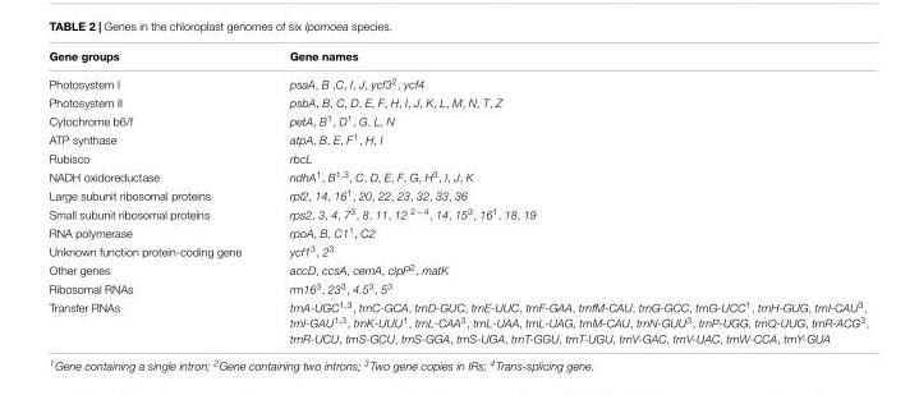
<table><thead><tr><td>Gene groups</td><td>Gene names</td></tr></thead><tbody><tr><td>Photosystem I</td><td>psaA, B ,C, I, J, ycf3<sup>2</sup>, ycf4</td></tr><tr><td>Photosystem II</td><td>psbA, B, C, D, E, F, H, I, J, K, L, M, N, T, Z</td></tr><tr><td>Cytochrome b6/f</td><td>petA, B<sup>1</sup>, D<sup>1</sup>, G, L, N</td></tr><tr><td>ATP synthase</td><td>atpA, B, E, F<sup>1</sup>, H, I</td></tr><tr><td>Rubisco</td><td>rbcL</td></tr><tr><td>NADH oxidoreductase</td><td>ndhA<sup>1</sup>, B<sup>1,3</sup>, C, D, E, F, G, H<sup>3</sup>, I, J, K</td></tr><tr><td>Large subunit ribosomal proteins</td><td>rpl2, 14, 16<sup>1</sup>, 20, 22, 23, 32, 33, 36</td></tr><tr><td>Small subunit ribosomal proteins</td><td>rps2, 3, 4, 7<sup>3</sup>, 8, 11, 12 <sup>2−4</sup>, 14, 15<sup>3</sup>, 16<sup>1</sup>, 18, 19</td></tr><tr><td>RNA polymerase</td><td>rpoA, B, C1<sup>1</sup>, C2</td></tr><tr><td>Unknown function protein-coding gene</td><td>ycf1<sup>3</sup>, 2<sup>3</sup></td></tr><tr><td>Other genes</td><td>accD, ccsA, cemA, clpP<sup>2</sup>, matK</td></tr><tr><td>Ribosomal RNAs</td><td>rrn16<sup>3</sup>, 23<sup>3</sup>, 4.5<sup>3</sup>, 5<sup>3</sup></td></tr><tr><td>Transfer RNAs</td><td>trnA-UGC<sup>1,3</sup>, trnC-GCA, trnD-GUC, trnE-UUC, trnF-GAA, trnfM-CAU, trnG-GCC, trnG-UCC<sup>1</sup>, trnH-GUG, trnI-CAU<sup>3</sup>, trnI-GAU<sup>1,3</sup>, trnK-UUU<sup>1</sup>, trnL-CAA<sup>3</sup>, trnL-UAA, trnL-UAG, trnM-CAU, trnN-GUU<sup>3</sup>, trnP-UGG, trnQ-UUG, trnR-ACG<sup>3</sup>, trnR-UCU, trnS-GCU, trnS-GGA, trnS-UGA, trnT-GGU, trnT-UGU, trnV-GAC, trnV-UAC, trnW-CCA, trnY-GUA</td></tr></tbody></table>